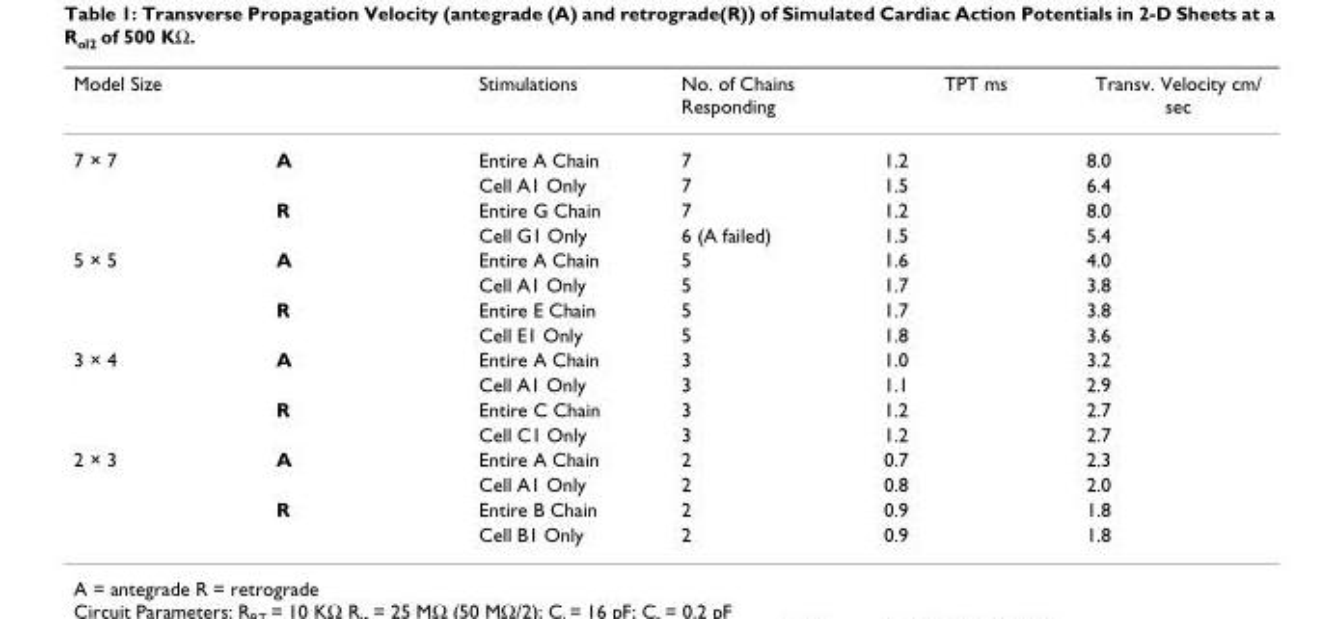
<table><thead><tr><td>Model Size</td><td></td><td>Stimulations</td><td>No. of Chains Responding</td><td>TPT ms</td><td>Transv. Velocity cm/ sec</td></tr></thead><tbody><tr><td rowspan="4">7 × 7</td><td>A</td><td>Entire A Chain</td><td>7</td><td>1.2</td><td>8.0</td></tr><tr><td></td><td>Cell A1 Only</td><td>7</td><td>1.5</td><td>6.4</td></tr><tr><td>R</td><td>Entire G Chain</td><td>7</td><td>1.2</td><td>8.0</td></tr><tr><td></td><td>Cell G1 Only</td><td>6 (A failed)</td><td>1.5</td><td>5.4</td></tr><tr><td rowspan="4">5 × 5</td><td>A</td><td>Entire A Chain</td><td>5</td><td>1.6</td><td>4.0</td></tr><tr><td></td><td>Cell A1 Only</td><td>5</td><td>1.7</td><td>3.8</td></tr><tr><td>R</td><td>Entire E Chain</td><td>5</td><td>1.7</td><td>3.8</td></tr><tr><td></td><td>Cell E1 Only</td><td>5</td><td>1.8</td><td>3.6</td></tr><tr><td rowspan="4">3 × 4</td><td>A</td><td>Entire A Chain</td><td>3</td><td>1.0</td><td>3.2</td></tr><tr><td></td><td>Cell A1 Only</td><td>3</td><td>1.1</td><td>2.9</td></tr><tr><td>R</td><td>Entire C Chain</td><td>3</td><td>1.2</td><td>2.7</td></tr><tr><td></td><td>Cell C1 Only</td><td>3</td><td>1.2</td><td>2.7</td></tr><tr><td rowspan="4">2 × 3</td><td>A</td><td>Entire A Chain</td><td>2</td><td>0.7</td><td>2.3</td></tr><tr><td></td><td>Cell A1 Only</td><td>2</td><td>0.8</td><td>2.0</td></tr><tr><td>R</td><td>Entire B Chain</td><td>2</td><td>0.9</td><td>1.8</td></tr><tr><td></td><td>Cell B1 Only</td><td>2</td><td>0.9</td><td>1.8</td></tr></tbody></table>